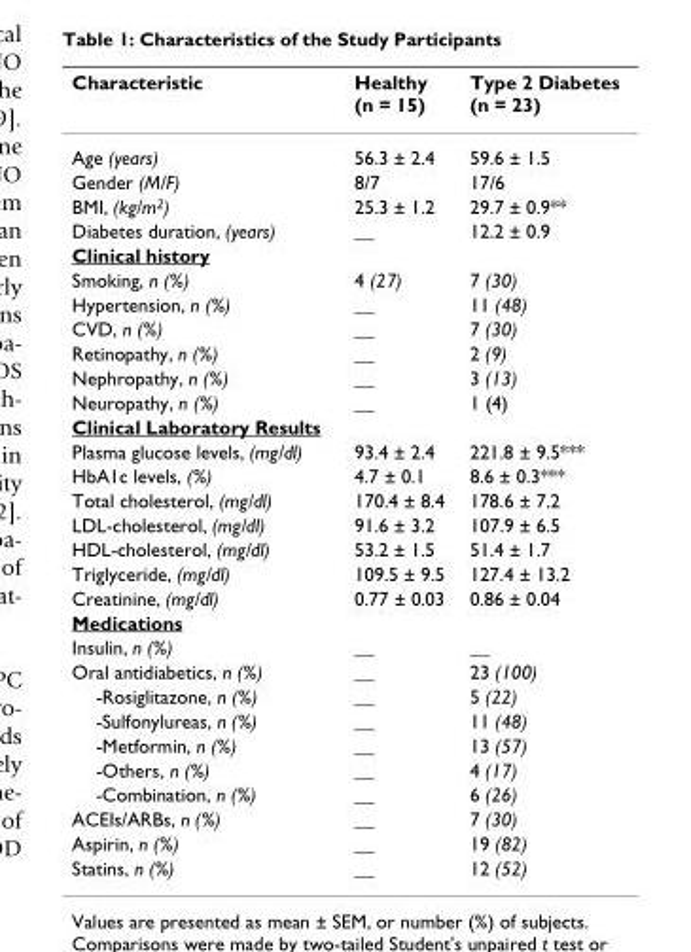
<table><thead><tr><td>Characteristic</td><td>Healthy (n = 15)</td><td>Type 2 Diabetes (n = 23)</td></tr></thead><tbody><tr><td>Age (years)</td><td>56.3 ± 2.4</td><td>59.6 ± 1.5</td></tr><tr><td>Gender (M/F)</td><td>8/7</td><td>17/6</td></tr><tr><td>BMI, (kg/m<sup>2</sup>)</td><td>25.3 ± 1.2</td><td>29.7 ± 0.9**</td></tr><tr><td>Diabetes duration, (years)</td><td>__</td><td>12.2 ± 0.9</td></tr><tr><td colspan="3">Clinical history</td></tr><tr><td>Smoking, n (%)</td><td>4 (27)</td><td>7 (30)</td></tr><tr><td>Hypertension, n (%)</td><td>__</td><td>11 (48)</td></tr><tr><td>CVD, n (%)</td><td>__</td><td>7 (30)</td></tr><tr><td>Retinopathy, n (%)</td><td>__</td><td>2 (9)</td></tr><tr><td>Nephropathy, n (%)</td><td>__</td><td>3 (13)</td></tr><tr><td>Neuropathy, n (%)</td><td>__</td><td>1 (4)</td></tr><tr><td colspan="3">Clinical Laboratory Results</td></tr><tr><td>Plasma glucose levels, (mg/dl)</td><td>93.4 ± 2.4</td><td>221.8 ± 9.5***</td></tr><tr><td>HbA1c levels, (%)</td><td>4.7 ± 0.1</td><td>8.6 ± 0.3***</td></tr><tr><td>Total cholesterol, (mg/dl)</td><td>170.4 ± 8.4</td><td>178.6 ± 7.2</td></tr><tr><td>LDL-cholesterol, (mg/dl)</td><td>91.6 ± 3.2</td><td>107.9 ± 6.5</td></tr><tr><td>HDL-cholesterol, (mg/dl)</td><td>53.2 ± 1.5</td><td>51.4 ± 1.7</td></tr><tr><td>Triglyceride, (mg/dl)</td><td>109.5 ± 9.5</td><td>127.4 ± 13.2</td></tr><tr><td>Creatinine, (mg/dl)</td><td>0.77 ± 0.03</td><td>0.86 ± 0.04</td></tr><tr><td colspan="3">Medications</td></tr><tr><td>Insulin, n (%)</td><td>__</td><td>__</td></tr><tr><td>Oral antidiabetics, n (%)</td><td>__</td><td>23 (100)</td></tr><tr><td>-Rosiglitazone, n (%)</td><td>__</td><td>5 (22)</td></tr><tr><td>-Sulfonylureas, n (%)</td><td>__</td><td>11 (48)</td></tr><tr><td>-Metformin, n (%)</td><td>__</td><td>13 (57)</td></tr><tr><td>-Others, n (%)</td><td>__</td><td>4 (17)</td></tr><tr><td>-Combination, n (%)</td><td>__</td><td>6 (26)</td></tr><tr><td>ACEIs/ARBs, n (%)</td><td>__</td><td>7 (30)</td></tr><tr><td>Aspirin, n (%)</td><td>__</td><td>19 (82)</td></tr><tr><td>Statins, n (%)</td><td>__</td><td>12 (52)</td></tr></tbody></table>